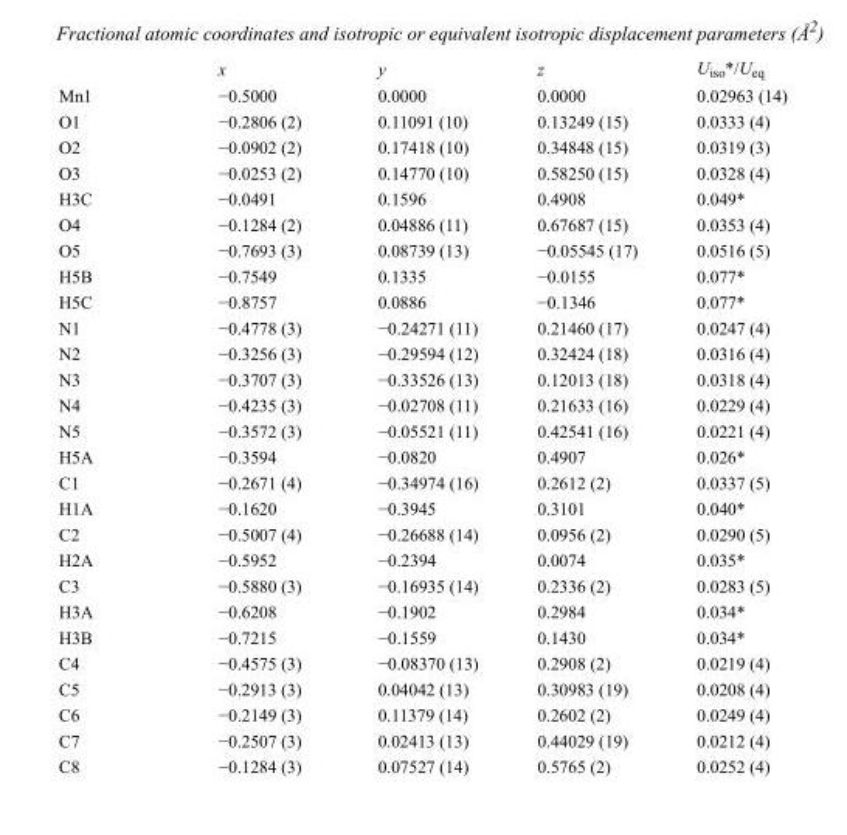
<table><thead><tr><td></td><td>x</td><td>y</td><td>z</td><td>U<sub>iso</sub>*/U<sub>eq</sub></td></tr></thead><tbody><tr><td>Mn1</td><td>−0.5000</td><td>0.0000</td><td>0.0000</td><td>0.02963 (14)</td></tr><tr><td>O1</td><td>−0.2806 (2)</td><td>0.11091 (10)</td><td>0.13249 (15)</td><td>0.0333 (4)</td></tr><tr><td>O2</td><td>−0.0902 (2)</td><td>0.17418 (10)</td><td>0.34848 (15)</td><td>0.0319 (3)</td></tr><tr><td>O3</td><td>−0.0253 (2)</td><td>0.14770 (10)</td><td>0.58250 (15)</td><td>0.0328 (4)</td></tr><tr><td>H3C</td><td>−0.0491</td><td>0.1596</td><td>0.4908</td><td>0.049*</td></tr><tr><td>O4</td><td>−0.1284 (2)</td><td>0.04886 (11)</td><td>0.67687 (15)</td><td>0.0353 (4)</td></tr><tr><td>O5</td><td>−0.7693 (3)</td><td>0.08739 (13)</td><td>−0.05545 (17)</td><td>0.0516 (5)</td></tr><tr><td>H5B</td><td>−0.7549</td><td>0.1335</td><td>−0.0155</td><td>0.077*</td></tr><tr><td>H5C</td><td>−0.8757</td><td>0.0886</td><td>−0.1346</td><td>0.077*</td></tr><tr><td>N1</td><td>−0.4778 (3)</td><td>−0.24271 (11)</td><td>0.21460 (17)</td><td>0.0247 (4)</td></tr><tr><td>N2</td><td>−0.3256 (3)</td><td>−0.29594 (12)</td><td>0.32424 (18)</td><td>0.0316 (4)</td></tr><tr><td>N3</td><td>−0.3707 (3)</td><td>−0.33526 (13)</td><td>0.12013 (18)</td><td>0.0318 (4)</td></tr><tr><td>N4</td><td>−0.4235 (3)</td><td>−0.02708 (11)</td><td>0.21633 (16)</td><td>0.0229 (4)</td></tr><tr><td>N5</td><td>−0.3572 (3)</td><td>−0.05521 (11)</td><td>0.42541 (16)</td><td>0.0221 (4)</td></tr><tr><td>H5A</td><td>−0.3594</td><td>−0.0820</td><td>0.4907</td><td>0.026*</td></tr><tr><td>C1</td><td>−0.2671 (4)</td><td>−0.34974 (16)</td><td>0.2612 (2)</td><td>0.0337 (5)</td></tr><tr><td>H1A</td><td>−0.1620</td><td>−0.3945</td><td>0.3101</td><td>0.040*</td></tr><tr><td>C2</td><td>−0.5007 (4)</td><td>−0.26688 (14)</td><td>0.0956 (2)</td><td>0.0290 (5)</td></tr><tr><td>H2A</td><td>−0.5952</td><td>−0.2394</td><td>0.0074</td><td>0.035*</td></tr><tr><td>C3</td><td>−0.5880 (3)</td><td>−0.16935 (14)</td><td>0.2336 (2)</td><td>0.0283 (5)</td></tr><tr><td>H3A</td><td>−0.6208</td><td>−0.1902</td><td>0.2984</td><td>0.034*</td></tr><tr><td>H3B</td><td>−0.7215</td><td>−0.1559</td><td>0.1430</td><td>0.034*</td></tr><tr><td>C4</td><td>−0.4575 (3)</td><td>−0.08370 (13)</td><td>0.2908 (2)</td><td>0.0219 (4)</td></tr><tr><td>C5</td><td>−0.2913 (3)</td><td>0.04042 (13)</td><td>0.30983 (19)</td><td>0.0208 (4)</td></tr><tr><td>C6</td><td>−0.2149 (3)</td><td>0.11379 (14)</td><td>0.2602 (2)</td><td>0.0249 (4)</td></tr><tr><td>C7</td><td>−0.2507 (3)</td><td>0.02413 (13)</td><td>0.44029 (19)</td><td>0.0212 (4)</td></tr><tr><td>C8</td><td>−0.1284 (3)</td><td>0.07527 (14)</td><td>0.5765 (2)</td><td>0.0252 (4)</td></tr></tbody></table>